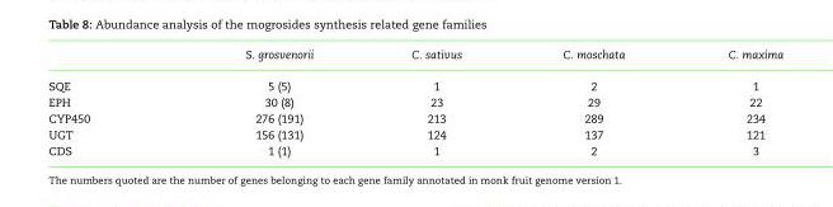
<table><thead><tr><td></td><td>S. grosvenorii</td><td>C. sativus</td><td>C. moschata</td><td>C. maxima</td></tr></thead><tbody><tr><td>SQE</td><td>5 (5)</td><td>1</td><td>2</td><td>1</td></tr><tr><td>EPH</td><td>30 (8)</td><td>23</td><td>29</td><td>22</td></tr><tr><td>CYP450</td><td>276 (191)</td><td>213</td><td>289</td><td>234</td></tr><tr><td>UGT</td><td>156 (131)</td><td>124</td><td>137</td><td>121</td></tr><tr><td>CDS</td><td>1 (1)</td><td>1</td><td>2</td><td>3</td></tr></tbody></table>